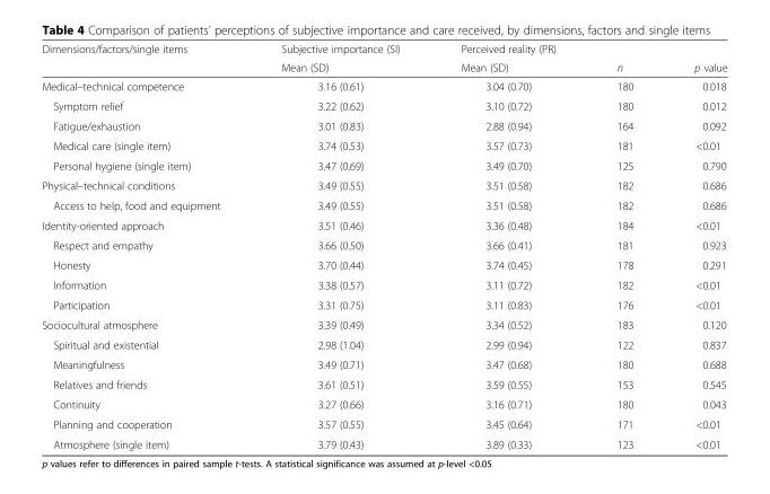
<table><thead><tr><td rowspan="2">Dimensions/factors/single items</td><td rowspan="2">Subjective importance (SI) Mean (SD)</td><td rowspan="2">Perceived reality (PR) Mean (SD)</td><td rowspan="2">n</td><td rowspan="2">p value</td></tr><tr></tr></thead><tbody><tr><td>Medical–technical competence</td><td>3.16 (0.61)</td><td>3.04 (0.70)</td><td>180</td><td>0.018</td></tr><tr><td>Symptom relief</td><td>3.22 (0.62)</td><td>3.10 (0.72)</td><td>180</td><td>0.012</td></tr><tr><td>Fatigue/exhaustion</td><td>3.01 (0.83)</td><td>2.88 (0.94)</td><td>164</td><td>0.092</td></tr><tr><td>Medical care (single item)</td><td>3.74 (0.53)</td><td>3.57 (0.73)</td><td>181</td><td>&lt;0.01</td></tr><tr><td>Personal hygiene (single item)</td><td>3.47 (0.69)</td><td>3.49 (0.70)</td><td>125</td><td>0.790</td></tr><tr><td>Physical–technical conditions</td><td>3.49 (0.55)</td><td>3.51 (0.58)</td><td>182</td><td>0.686</td></tr><tr><td>Access to help, food and equipment</td><td>3.49 (0.55)</td><td>3.51 (0.58)</td><td>182</td><td>0.686</td></tr><tr><td>Identity-oriented approach</td><td>3.51 (0.46)</td><td>3.36 (0.48)</td><td>184</td><td>&lt;0.01</td></tr><tr><td>Respect and empathy</td><td>3.66 (0.50)</td><td>3.66 (0.41)</td><td>181</td><td>0.923</td></tr><tr><td>Honesty</td><td>3.70 (0.44)</td><td>3.74 (0.45)</td><td>178</td><td>0.291</td></tr><tr><td>Information</td><td>3.38 (0.57)</td><td>3.11 (0.72)</td><td>182</td><td>&lt;0.01</td></tr><tr><td>Participation</td><td>3.31 (0.75)</td><td>3.11 (0.83)</td><td>176</td><td>&lt;0.01</td></tr><tr><td>Sociocultural atmosphere</td><td>3.39 (0.49)</td><td>3.34 (0.52)</td><td>183</td><td>0.120</td></tr><tr><td>Spiritual and existential</td><td>2.98 (1.04)</td><td>2.99 (0.94)</td><td>122</td><td>0.837</td></tr><tr><td>Meaningfulness</td><td>3.49 (0.71)</td><td>3.47 (0.68)</td><td>180</td><td>0.688</td></tr><tr><td>Relatives and friends</td><td>3.61 (0.51)</td><td>3.59 (0.55)</td><td>153</td><td>0.545</td></tr><tr><td>Continuity</td><td>3.27 (0.66)</td><td>3.16 (0.71)</td><td>180</td><td>0.043</td></tr><tr><td>Planning and cooperation</td><td>3.57 (0.55)</td><td>3.45 (0.64)</td><td>171</td><td>&lt;0.01</td></tr><tr><td>Atmosphere (single item)</td><td>3.79 (0.43)</td><td>3.89 (0.33)</td><td>123</td><td>&lt;0.01</td></tr></tbody></table>